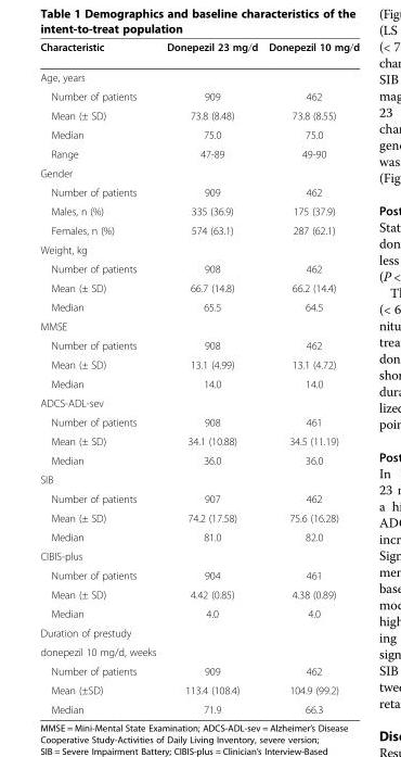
<table><thead><tr><td>Characteristic</td><td>Donepezil 23 mg/d</td><td>Donepezil 10 mg/d</td></tr></thead><tbody><tr><td colspan="3">Age, years</td></tr><tr><td>Number of patients</td><td>909</td><td>462</td></tr><tr><td>Mean (± SD)</td><td>73.8 (8.48)</td><td>73.8 (8.55)</td></tr><tr><td>Median</td><td>75.0</td><td>75.0</td></tr><tr><td>Range</td><td>47-89</td><td>49-90</td></tr><tr><td colspan="3">Gender</td></tr><tr><td>Number of patients</td><td>909</td><td>462</td></tr><tr><td>Males, n (%)</td><td>335 (36.9)</td><td>175 (37.9)</td></tr><tr><td>Females, n (%)</td><td>574 (63.1)</td><td>287 (62.1)</td></tr><tr><td colspan="3">Weight, kg</td></tr><tr><td>Number of patients</td><td>908</td><td>462</td></tr><tr><td>Mean (± SD)</td><td>66.7 (14.8)</td><td>66.2 (14.4)</td></tr><tr><td>Median</td><td>65.5</td><td>64.5</td></tr><tr><td colspan="3">MMSE</td></tr><tr><td>Number of patients</td><td>908</td><td>462</td></tr><tr><td>Mean (± SD)</td><td>13.1 (4.99)</td><td>13.1 (4.72)</td></tr><tr><td>Median</td><td>14.0</td><td>14.0</td></tr><tr><td colspan="3">ADCS-ADL-sev</td></tr><tr><td>Number of patients</td><td>908</td><td>461</td></tr><tr><td>Mean (± SD)</td><td>34.1 (10.88)</td><td>34.5 (11.19)</td></tr><tr><td>Median</td><td>36.0</td><td>36.0</td></tr><tr><td colspan="3">SIB</td></tr><tr><td>Number of patients</td><td>907</td><td>462</td></tr><tr><td>Mean (± SD)</td><td>74.2 (17.58)</td><td>75.6 (16.28)</td></tr><tr><td>Median</td><td>81.0</td><td>82.0</td></tr><tr><td colspan="3">CIBIS-plus</td></tr><tr><td>Number of patients</td><td>904</td><td>461</td></tr><tr><td>Mean (± SD)</td><td>4.42 (0.85)</td><td>4.38 (0.89)</td></tr><tr><td>Median</td><td>4.0</td><td>4.0</td></tr><tr><td colspan="3">Duration of prestudy</td></tr><tr><td colspan="3">donepezil 10 mg/d, weeks</td></tr><tr><td>Number of patients</td><td>909</td><td>462</td></tr><tr><td>Mean (±SD)</td><td>113.4 (108.4)</td><td>104.9 (99.2)</td></tr><tr><td>Median</td><td>71.9</td><td>66.3</td></tr></tbody></table>